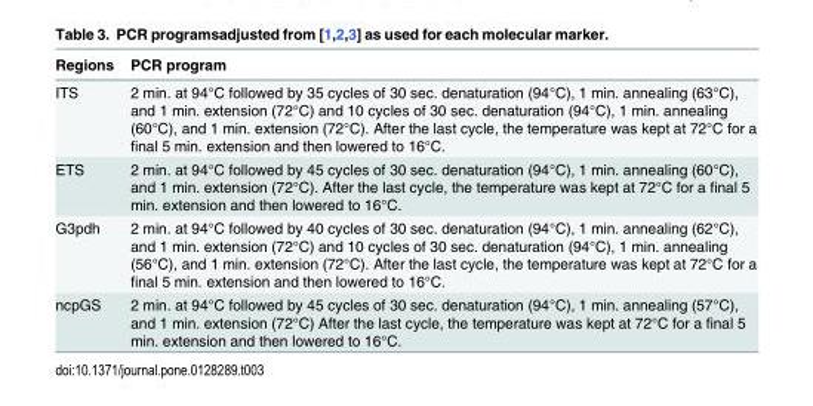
<table><thead><tr><td>Regions</td><td>PCR program</td></tr></thead><tbody><tr><td>ITS</td><td>2 min. at 94°C followed by 35 cycles of 30 sec. denaturation (94°C), 1 min. annealing (63°C), and 1 min. extension (72°C) and 10 cycles of 30 sec. denaturation (94°C), 1 min. annealing (60°C), and 1 min. extension (72°C). After the last cycle, the temperature was kept at 72°C for a final 5 min. extension and then lowered to 16°C.</td></tr><tr><td>ETS</td><td>2 min. at 94°C followed by 45 cycles of 30 sec. denaturation (94°C), 1 min. annealing (60°C), and 1 min. extension (72°C). After the last cycle, the temperature was kept at 72°C for a final 5 min. extension and then lowered to 16°C.</td></tr><tr><td>G3pdh</td><td>2 min. at 94°C followed by 40 cycles of 30 sec. denaturation (94°C), 1 min. annealing (62°C), and 1 min. extension (72°C) and 10 cycles of 30 sec. denaturation (94°C), 1 min. annealing (56°C), and 1 min. extension (72°C). After the last cycle, the temperature was kept at 72°C for a final 5 min. extension and then lowered to 16°C.</td></tr><tr><td>ncpGS</td><td>2 min. at 94°C followed by 45 cycles of 30 sec. denaturation (94°C), 1 min. annealing (57°C), and 1 min. extension (72°C) After the last cycle, the temperature was kept at 72°C for a final 5 min. extension and then lowered to 16°C.</td></tr></tbody></table>